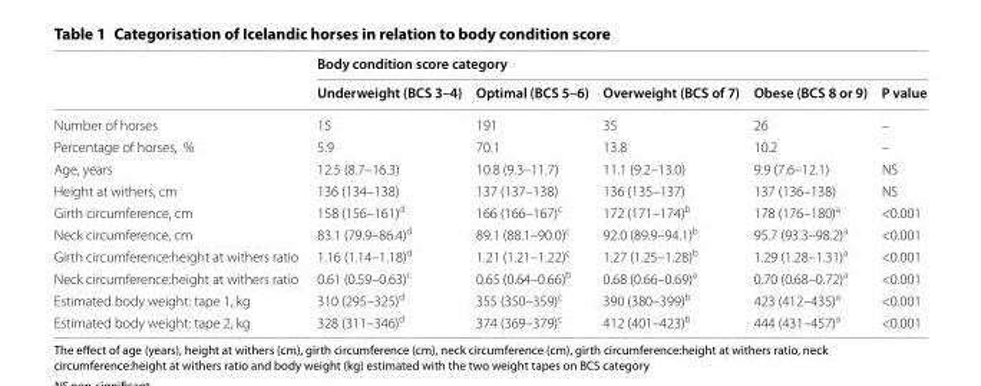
<table><thead><tr><td rowspan="2"></td><td colspan="5">Body condition score category</td></tr><tr><td>Underweight (BCS 3–4)</td><td>Optimal (BCS 5–6)</td><td>Overweight (BCS of 7)</td><td>Obese (BCS 8 or 9)</td><td>P value</td></tr></thead><tbody><tr><td>Number of horses</td><td>15</td><td>191</td><td>35</td><td>26</td><td>–</td></tr><tr><td>Percentage of horses, %</td><td>5.9</td><td>70.1</td><td>13.8</td><td>10.2</td><td>–</td></tr><tr><td>Age, years</td><td>12.5 (8.7–16.3)</td><td>10.8 (9.3–11.7)</td><td>11.1 (9.2–13.0)</td><td>9.9 (7.6–12.1)</td><td>NS</td></tr><tr><td>Height at withers, cm</td><td>136 (134–138)</td><td>137 (137–138)</td><td>136 (135–137)</td><td>137 (136–138)</td><td>NS</td></tr><tr><td>Girth circumference, cm</td><td>158 (156–161)<sup>d</sup></td><td>166 (166–167)<sup>c</sup></td><td>172 (171–174)<sup>b</sup></td><td>178 (176–180)<sup>a</sup></td><td>&lt;0.001</td></tr><tr><td>Neck circumference, cm</td><td>83.1 (79.9–86.4)<sup>d</sup></td><td>89.1 (88.1–90.0)<sup>c</sup></td><td>92.0 (89.9–94.1)<sup>b</sup></td><td>95.7 (93.3–98.2)<sup>a</sup></td><td>&lt;0.001</td></tr><tr><td>Girth circumference:height at withers ratio</td><td>1.16 (1.14–1.18)<sup>d</sup></td><td>1.21 (1.21–1.22)<sup>c</sup></td><td>1.27 (1.25–1.28)<sup>b</sup></td><td>1.29 (1.28–1.31)<sup>a</sup></td><td>&lt;0.001</td></tr><tr><td>Neck circumference:height at withers ratio</td><td>0.61 (0.59–0.63)<sup>c</sup></td><td>0.65 (0.64–0.66)<sup>b</sup></td><td>0.68 (0.66–0.69)<sup>a</sup></td><td>0.70 (0.68–0.72)<sup>a</sup></td><td>&lt;0.001</td></tr><tr><td>Estimated body weight: tape 1, kg</td><td>310 (295–325)<sup>d</sup></td><td>355 (350–359)<sup>c</sup></td><td>390 (380–399)<sup>b</sup></td><td>423 (412–435)<sup>a</sup></td><td>&lt;0.001</td></tr><tr><td>Estimated body weight: tape 2, kg</td><td>328 (311–346)<sup>d</sup></td><td>374 (369–379)<sup>c</sup></td><td>412 (401–423)<sup>b</sup></td><td>444 (431–457)<sup>a</sup></td><td>&lt;0.001</td></tr></tbody></table>